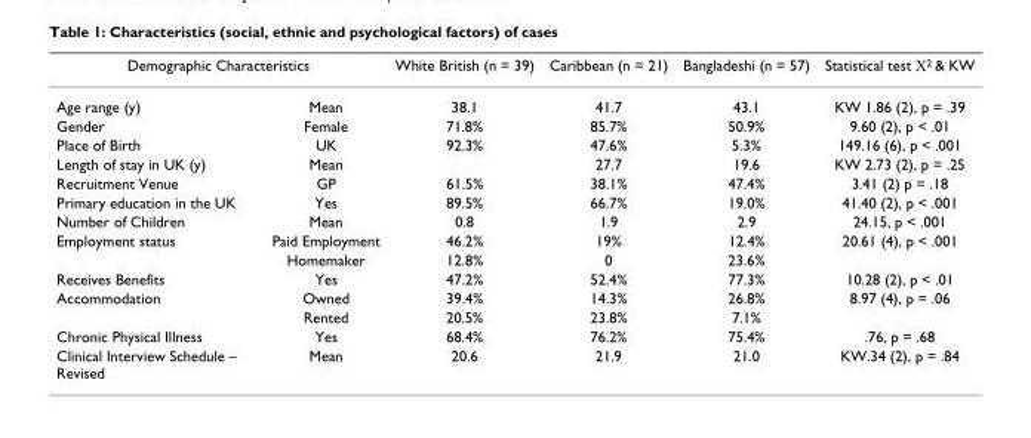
<table><thead><tr><td colspan="2">Demographic Characteristics</td><td rowspan="2">White British (n = 39) 38.1</td><td rowspan="2">Caribbean (n = 21) 41.7</td><td rowspan="2">Bangladeshi (n = 57) 43.1</td><td rowspan="2">Statistical test Χ<sup>2</sup> &amp; KW KW 1.86 (2), p = .39</td></tr><tr><td>Age range (y)</td><td>Mean</td></tr></thead><tbody><tr><td>Gender</td><td>Female</td><td>71.8%</td><td>85.7%</td><td>50.9%</td><td>9.60 (2), p &lt; .01</td></tr><tr><td>Place of Birth</td><td>UK</td><td>92.3%</td><td>47.6%</td><td>5.3%</td><td>149.16 (6), p &lt; .001</td></tr><tr><td>Length of stay in UK (y)</td><td>Mean</td><td></td><td>27.7</td><td>19.6</td><td>KW 2.73 (2), p = .25</td></tr><tr><td>Recruitment Venue</td><td>GP</td><td>61.5%</td><td>38.1%</td><td>47.4%</td><td>3.41 (2) p = .18</td></tr><tr><td>Primary education in the UK</td><td>Yes</td><td>89.5%</td><td>66.7%</td><td>19.0%</td><td>41.40 (2), p &lt; .001</td></tr><tr><td>Number of Children</td><td>Mean</td><td>0.8</td><td>1.9</td><td>2.9</td><td>24.15, p &lt; .001</td></tr><tr><td rowspan="2">Employment status</td><td>Paid Employment</td><td>46.2%</td><td>19%</td><td>12.4%</td><td>20.61 (4), p &lt; .001</td></tr><tr><td>Homemaker</td><td>12.8%</td><td>0</td><td>23.6%</td><td></td></tr><tr><td>Receives Benefits</td><td>Yes</td><td>47.2%</td><td>52.4%</td><td>77.3%</td><td>10.28 (2), p &lt; .01</td></tr><tr><td rowspan="2">Accommodation</td><td>Owned</td><td>39.4%</td><td>14.3%</td><td>26.8%</td><td>8.97 (4), p = .06</td></tr><tr><td>Rented</td><td>20.5%</td><td>23.8%</td><td>7.1%</td><td></td></tr><tr><td>Chronic Physical Illness</td><td>Yes</td><td>68.4%</td><td>76.2%</td><td>75.4%</td><td>.76, p = .68</td></tr><tr><td>Clinical Interview Schedule – Revised</td><td>Mean</td><td>20.6</td><td>21.9</td><td>21.0</td><td>KW.34 (2), p = .84</td></tr></tbody></table>